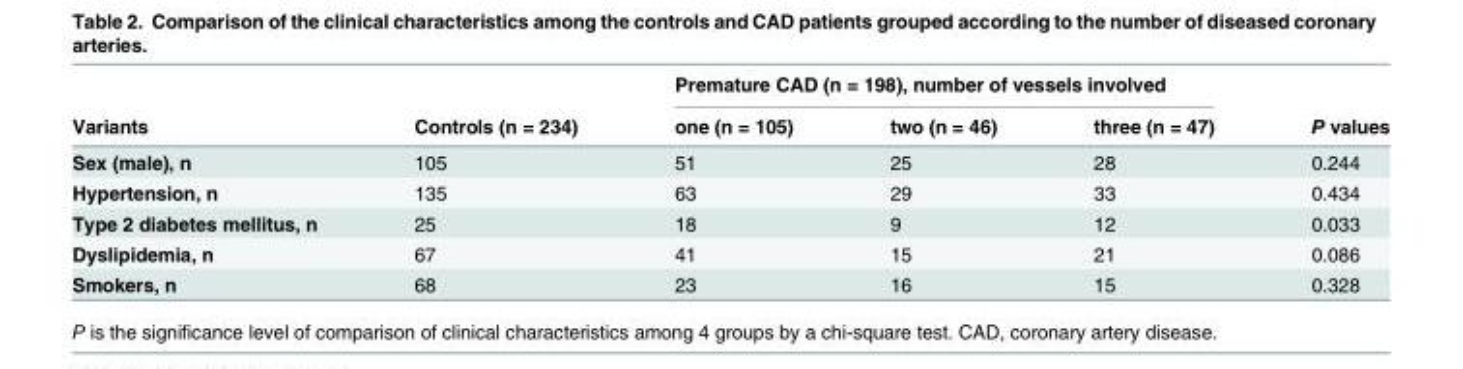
<table><thead><tr><td rowspan="2">Variants</td><td rowspan="2">Controls (n = 234)</td><td colspan="3">Premature CAD (n = 198), number of vessels involved</td><td rowspan="2">P values</td></tr><tr><td>one (n = 105)</td><td>two (n = 46)</td><td>three (n = 47)</td></tr></thead><tbody><tr><td>Sex (male), n</td><td>105</td><td>51</td><td>25</td><td>28</td><td>0.244</td></tr><tr><td>Hypertension, n</td><td>135</td><td>63</td><td>29</td><td>33</td><td>0.434</td></tr><tr><td>Type 2 diabetes mellitus, n</td><td>25</td><td>18</td><td>9</td><td>12</td><td>0.033</td></tr><tr><td>Dyslipidemia, n</td><td>67</td><td>41</td><td>15</td><td>21</td><td>0.086</td></tr><tr><td>Smokers, n</td><td>68</td><td>23</td><td>16</td><td>15</td><td>0.328</td></tr></tbody></table>